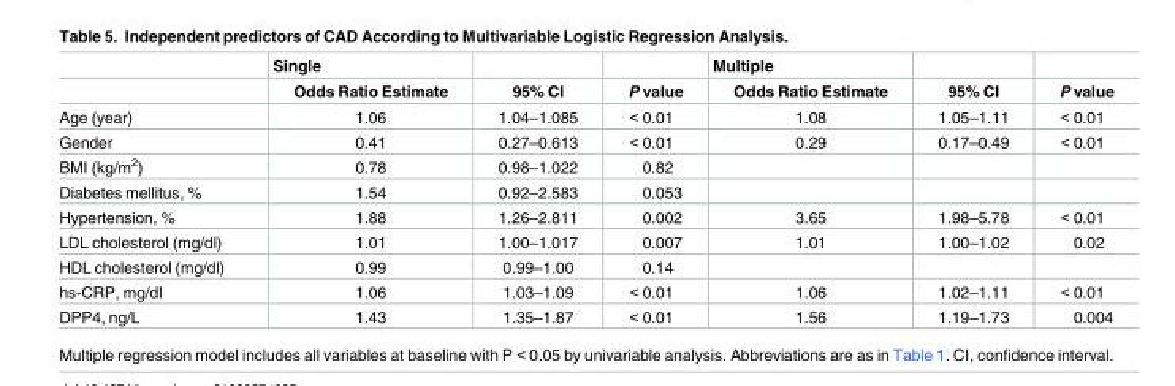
<table><thead><tr><td rowspan="2"></td><td rowspan="2">Single Odds Ratio Estimate</td><td rowspan="2">95% CI</td><td rowspan="2">P value</td><td rowspan="2">Multiple Odds Ratio Estimate</td><td rowspan="2">95% CI</td><td rowspan="2">P value</td></tr><tr></tr></thead><tbody><tr><td>Age (year)</td><td>1.06</td><td>1.04–1.085</td><td>&lt; 0.01</td><td>1.08</td><td>1.05–1.11</td><td>&lt; 0.01</td></tr><tr><td>Gender</td><td>0.41</td><td>0.27–0.613</td><td>&lt; 0.01</td><td>0.29</td><td>0.17–0.49</td><td>&lt; 0.01</td></tr><tr><td>BMI (kg/m<sup>2</sup>)</td><td>0.78</td><td>0.98–1.022</td><td>0.82</td><td></td><td></td><td></td></tr><tr><td>Diabetes mellitus, %</td><td>1.54</td><td>0.92–2.583</td><td>0.053</td><td></td><td></td><td></td></tr><tr><td>Hypertension, %</td><td>1.88</td><td>1.26–2.811</td><td>0.002</td><td>3.65</td><td>1.98–5.78</td><td>&lt; 0.01</td></tr><tr><td>LDL cholesterol (mg/dl)</td><td>1.01</td><td>1.00–1.017</td><td>0.007</td><td>1.01</td><td>1.00–1.02</td><td>0.02</td></tr><tr><td>HDL cholesterol (mg/dl)</td><td>0.99</td><td>0.99–1.00</td><td>0.14</td><td></td><td></td><td></td></tr><tr><td>hs-CRP, mg/dl</td><td>1.06</td><td>1.03–1.09</td><td>&lt; 0.01</td><td>1.06</td><td>1.02–1.11</td><td>&lt; 0.01</td></tr><tr><td>DPP4, ng/L</td><td>1.43</td><td>1.35–1.87</td><td>&lt; 0.01</td><td>1.56</td><td>1.19–1.73</td><td>0.004</td></tr></tbody></table>